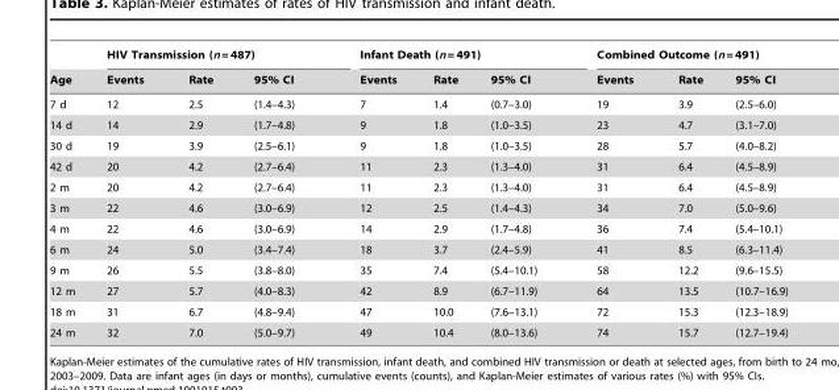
<table><thead><tr><td rowspan="2">Age</td><td colspan="3">HIV Transmission (n = 487)</td><td colspan="3">Infant Death (n = 491)</td><td colspan="3">Combined Outcome (n = 491)</td></tr><tr><td>Events</td><td>Rate</td><td>95% CI</td><td>Events</td><td>Rate</td><td>95% CI</td><td>Events</td><td>Rate</td><td>95% CI</td></tr></thead><tbody><tr><td>7 d</td><td>12</td><td>2.5</td><td>(1.4–4.3)</td><td>7</td><td>1.4</td><td>(0.7–3.0)</td><td>19</td><td>3.9</td><td>(2.5–6.0)</td></tr><tr><td>14 d</td><td>14</td><td>2.9</td><td>(1.7–4.8)</td><td>9</td><td>1.8</td><td>(1.0–3.5)</td><td>23</td><td>4.7</td><td>(3.1–7.0)</td></tr><tr><td>30 d</td><td>19</td><td>3.9</td><td>(2.5–6.1)</td><td>9</td><td>1.8</td><td>(1.0–3.5)</td><td>28</td><td>5.7</td><td>(4.0–8.2)</td></tr><tr><td>42 d</td><td>20</td><td>4.2</td><td>(2.7–6.4)</td><td>11</td><td>2.3</td><td>(1.3–4.0)</td><td>31</td><td>6.4</td><td>(4.5–8.9)</td></tr><tr><td>2 m</td><td>20</td><td>4.2</td><td>(2.7–6.4)</td><td>11</td><td>2.3</td><td>(1.3–4.0)</td><td>31</td><td>6.4</td><td>(4.5–8.9)</td></tr><tr><td>3 m</td><td>22</td><td>4.6</td><td>(3.0–6.9)</td><td>12</td><td>2.5</td><td>(1.4–4.3)</td><td>34</td><td>7.0</td><td>(5.0–9.6)</td></tr><tr><td>4 m</td><td>22</td><td>4.6</td><td>(3.0–6.9)</td><td>14</td><td>2.9</td><td>(1.7–4.8)</td><td>36</td><td>7.4</td><td>(5.4–10.1)</td></tr><tr><td>6 m</td><td>24</td><td>5.0</td><td>(3.4–7.4)</td><td>18</td><td>3.7</td><td>(2.4–5.9)</td><td>41</td><td>8.5</td><td>(6.3–11.4)</td></tr><tr><td>9 m</td><td>26</td><td>5.5</td><td>(3.8–8.0)</td><td>35</td><td>7.4</td><td>(5.4–10.1)</td><td>58</td><td>12.2</td><td>(9.6–15.5)</td></tr><tr><td>12 m</td><td>27</td><td>5.7</td><td>(4.0–8.3)</td><td>42</td><td>8.9</td><td>(6.7–11.9)</td><td>64</td><td>13.5</td><td>(10.7–16.9)</td></tr><tr><td>18 m</td><td>31</td><td>6.7</td><td>(4.8–9.4)</td><td>47</td><td>10.0</td><td>(7.6–13.1)</td><td>72</td><td>15.3</td><td>(12.3–18.9)</td></tr><tr><td>24 m</td><td>32</td><td>7.0</td><td>(5.0–9.7)</td><td>49</td><td>10.4</td><td>(8.0–13.6)</td><td>74</td><td>15.7</td><td>(12.7–19.4)</td></tr></tbody></table>